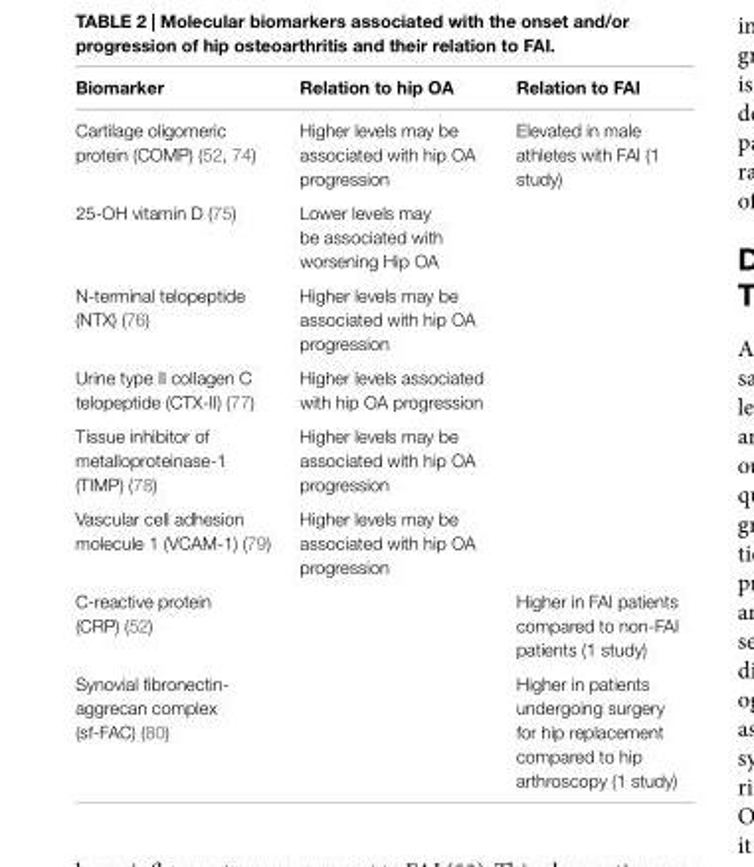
<table><thead><tr><td>Biomarker</td><td>Relation to hip OA</td><td>Relation to FAi</td></tr></thead><tbody><tr><td>Cartilage oligomeric protein (COMP) (52, 74)</td><td>Higher levels may be associated with hip OA progression</td><td>Elevated in male athletes with FAI (1 study)</td></tr><tr><td>25-OH vitamin D (75)</td><td>Lower levels may be associated with worsening Hip OA</td><td></td></tr><tr><td>N-terminal telopeptide (NTX) (76)</td><td>Higher levels may be associated with hip OA progression</td><td></td></tr><tr><td>Urine type II collagen C telopeptide (CTX-II) (77)</td><td>Higher levels associated with hip OA progression</td><td></td></tr><tr><td>Tissue inhibitor of metalloproteinase-1 (TIMP) (78)</td><td>Higher levels may be associated with hip OA progression</td><td></td></tr><tr><td>Vascular cell adhesion molecule 1 (VCAM-1) (79)</td><td>Higher levels may be associated with hip OA progression</td><td></td></tr><tr><td>C-reactive protein (CRP) (52)</td><td></td><td>Higher in FAI patients compared to non-FAI patients (1 study)</td></tr><tr><td>Synovial fibronectin- aggrecan complex (sf-FAC) (80)</td><td></td><td>Higher in patients undergoing surgery for hip replacement compared to hip arthroscopy (1 study)</td></tr></tbody></table>